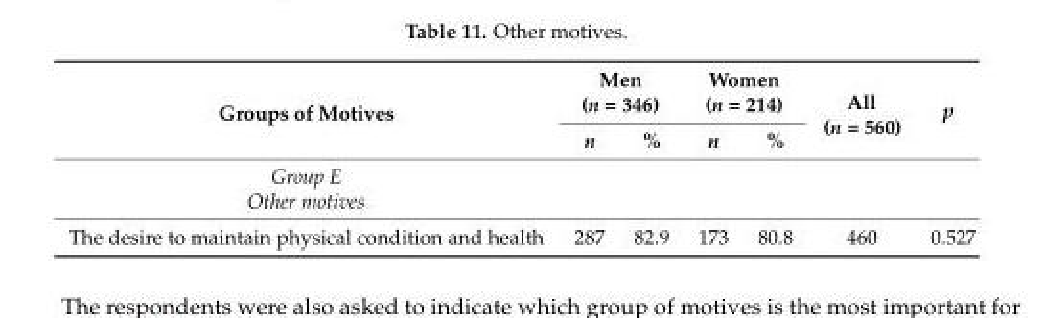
<table><thead><tr><td rowspan="2">Groups of Motives</td><td colspan="2">Men (n = 346)</td><td colspan="2">Women (n = 214)</td><td rowspan="2">All (n = 560)</td><td rowspan="2">p</td></tr><tr><td>n</td><td>%</td><td>n</td><td>%</td></tr></thead><tbody><tr><td colspan="7">Group E Other motives</td></tr><tr><td>The desire to maintain physical condition and health</td><td>287</td><td>82.9</td><td>173</td><td>80.8</td><td>460</td><td>0.527</td></tr></tbody></table>